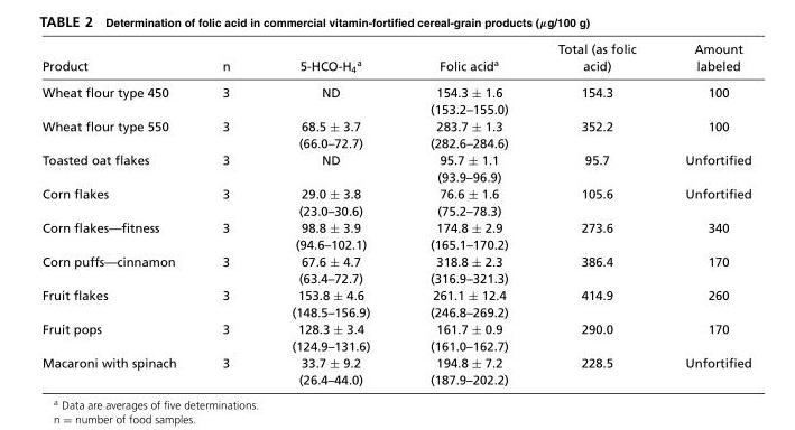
<table><thead><tr><td>Product</td><td>n</td><td>5-HCO-H<sub>4</sub><sup>a</sup></td><td>Folic acid<sup>a</sup></td><td>Total (as folic acid)</td><td>Amount labeled</td></tr></thead><tbody><tr><td>Wheat flour type 450</td><td>3</td><td>ND</td><td>154.3 ± 1.6 (153.2–155.0)</td><td>154.3</td><td>100</td></tr><tr><td>Wheat flour type 550</td><td>3</td><td>68.5 ± 3.7 (66.0–72.7)</td><td>283.7 ± 1.3 (282.6–284.6)</td><td>352.2</td><td>100</td></tr><tr><td>Toasted oat flakes</td><td>3</td><td>ND</td><td>95.7 ± 1.1 (93.9–96.9)</td><td>95.7</td><td>Unfortified</td></tr><tr><td>Corn flakes</td><td>3</td><td>29.0 ± 3.8 (23.0–30.6)</td><td>76.6 ± 1.6 (75.2–78.3)</td><td>105.6</td><td>Unfortified</td></tr><tr><td>Corn flakes—fitness</td><td>3</td><td>98.8 ± 3.9 (94.6–102.1)</td><td>174.8 ± 2.9 (165.1–170.2)</td><td>273.6</td><td>340</td></tr><tr><td>Corn puffs—cinnamon</td><td>3</td><td>67.6 ± 4.7 (63.4–72.7)</td><td>318.8 ± 2.3 (316.9–321.3)</td><td>386.4</td><td>170</td></tr><tr><td>Fruit flakes</td><td>3</td><td>153.8 ± 4.6 (148.5–156.9)</td><td>261.1 ± 12.4 (246.8–269.2)</td><td>414.9</td><td>260</td></tr><tr><td>Fruit pops</td><td>3</td><td>128.3 ± 3.4 (124.9–131.6)</td><td>161.7 ± 0.9 (161.0–162.7)</td><td>290.0</td><td>170</td></tr><tr><td>Macaroni with spinach</td><td>3</td><td>33.7 ± 9.2 (26.4–44.0)</td><td>194.8 ± 7.2 (187.9–202.2)</td><td>228.5</td><td>Unfortified</td></tr></tbody></table>